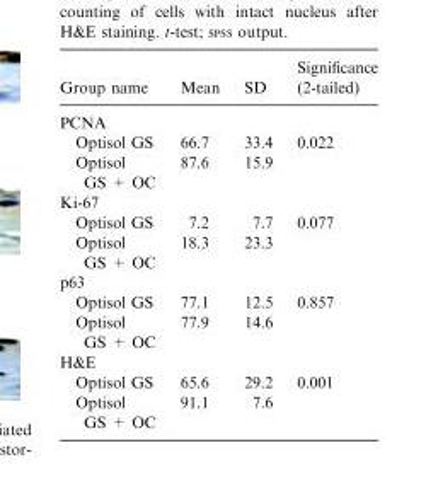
<table><thead><tr><td>Group name</td><td>Mean</td><td>SD</td><td>Significance (2-tailed)</td></tr></thead><tbody><tr><td colspan="4">PCNA</td></tr><tr><td>Optisol GS</td><td>66.7</td><td>33.4</td><td rowspan="2">0.022</td></tr><tr><td>Optisol GS + OC</td><td>87.6</td><td>15.9</td></tr><tr><td colspan="4">Ki-67</td></tr><tr><td>Optisol GS</td><td>7.2</td><td>7.7</td><td rowspan="2">0.077</td></tr><tr><td>Optisol GS + OC</td><td>18.3</td><td>23.3</td></tr><tr><td colspan="4">p63</td></tr><tr><td>Optisol GS</td><td>77.1</td><td>12.5</td><td rowspan="2">0.857</td></tr><tr><td>Optisol GS + OC</td><td>77.9</td><td>14.6</td></tr><tr><td colspan="4">H&amp;E</td></tr><tr><td>Optisol GS</td><td>65.6</td><td>29.2</td><td rowspan="2">0.001</td></tr><tr><td>Optisol GS + OC</td><td>91.1</td><td>7.6</td></tr></tbody></table>